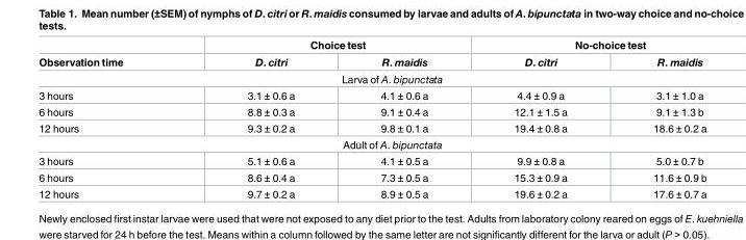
<table><thead><tr><td rowspan="2">Observation time</td><td colspan="2">Choice test</td><td colspan="2">No-choice test</td></tr><tr><td>D. citri</td><td>R. maidis</td><td>D. citri</td><td>R. maidis</td></tr></thead><tbody><tr><td colspan="5">Larva of A. bipunctata</td></tr><tr><td>3 hours</td><td>3.1 ± 0.6 a</td><td>4.1 ± 0.6 a</td><td>4.4 ± 0.9 a</td><td>3.1 ± 1.0 a</td></tr><tr><td>6 hours</td><td>8.8 ± 0.3 a</td><td>9.1 ± 0.4 a</td><td>12.1 ± 1.5 a</td><td>9.1 ± 1.3 b</td></tr><tr><td>12 hours</td><td>9.3 ± 0.2 a</td><td>9.8 ± 0.1 a</td><td>19.4 ± 0.8 a</td><td>18.6 ± 0.2 a</td></tr><tr><td colspan="5">Adult of A. bipunctata</td></tr><tr><td>3 hours</td><td>5.1 ± 0.6 a</td><td>4.1 ± 0.5 a</td><td>9.9 ± 0.8 a</td><td>5.0 ± 0.7 b</td></tr><tr><td>6 hours</td><td>8.6 ± 0.4 a</td><td>7.3 ± 0.5 a</td><td>15.3 ± 0.9 a</td><td>11.6 ± 0.9 b</td></tr><tr><td>12 hours</td><td>9.7 ± 0.2 a</td><td>8.9 ± 0.5 a</td><td>19.6 ± 0.2 a</td><td>17.6 ± 0.7 a</td></tr></tbody></table>